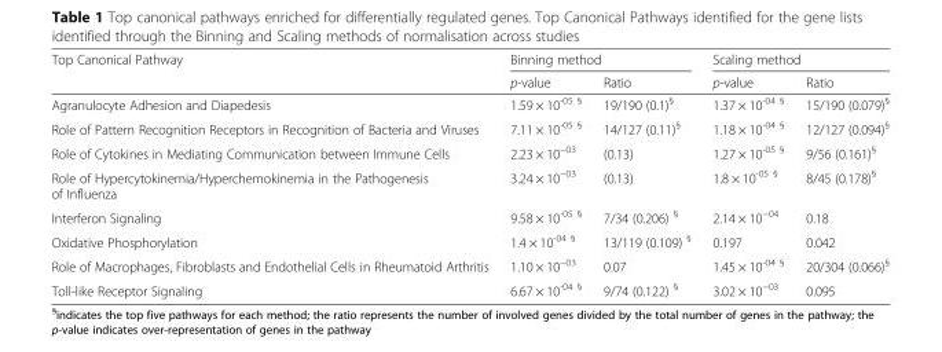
<table><thead><tr><td rowspan="2">Top Canonical Pathway</td><td colspan="2">Binning method</td><td colspan="2">Scaling method</td></tr><tr><td>p-value</td><td>Ratio</td><td>p-value</td><td>Ratio</td></tr></thead><tbody><tr><td>Agranulocyte Adhesion and Diapedesis</td><td>1.59 × 10<sup>-05 §</sup></td><td>19/190 (0.1)<sup>§</sup></td><td>1.37 × 10<sup>-04 §</sup></td><td>15/190 (0.079)<sup>§</sup></td></tr><tr><td>Role of Pattern Recognition Receptors in Recognition of Bacteria and Viruses</td><td>7.11 × 10<sup>-05 §</sup></td><td>14/127 (0.11)<sup>§</sup></td><td>1.18 × 10<sup>-04 §</sup></td><td>12/127 (0.094)<sup>§</sup></td></tr><tr><td>Role of Cytokines in Mediating Communication between Immune Cells</td><td>2.23 × 10<sup>−03</sup></td><td>(0.13)</td><td>1.27 × 10<sup>-05 §</sup></td><td>9/56 (0.161)<sup>§</sup></td></tr><tr><td>Role of Hypercytokinemia/Hyperchemokinemia in the Pathogenesis of Influenza</td><td>3.24 × 10<sup>−03</sup></td><td>(0.13)</td><td>1.8 × 10<sup>-05 §</sup></td><td>8/45 (0.178)<sup>§</sup></td></tr><tr><td>Interferon Signaling</td><td>9.58 × 10<sup>-05 §</sup></td><td>7/34 (0.206) <sup>§</sup></td><td>2.14 × 10<sup>−04</sup></td><td>0.18</td></tr><tr><td>Oxidative Phosphorylation</td><td>1.4 × 10<sup>-04 §</sup></td><td>13/119 (0.109) <sup>§</sup></td><td>0.197</td><td>0.042</td></tr><tr><td>Role of Macrophages, Fibroblasts and Endothelial Cells in Rheumatoid Arthritis</td><td>1.10 × 10<sup>−03</sup></td><td>0.07</td><td>1.45 × 10<sup>-04 §</sup></td><td>20/304 (0.066)<sup>§</sup></td></tr><tr><td>Toll-like Receptor Signaling</td><td>6.67 × 10<sup>-04 §</sup></td><td>9/74 (0.122) <sup>§</sup></td><td>3.02 × 10<sup>−03</sup></td><td>0.095</td></tr></tbody></table>